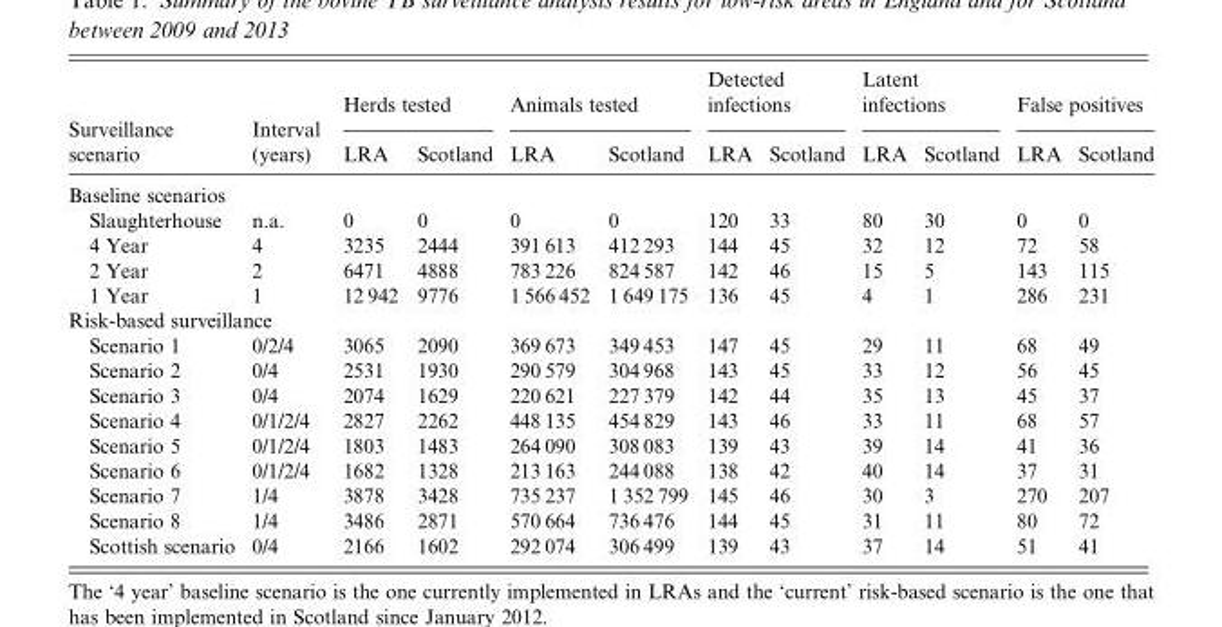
<table><thead><tr><td rowspan="2">Surveillance scenario</td><td rowspan="2">Interval (years)</td><td colspan="2">Herds tested</td><td colspan="2">Animals tested</td><td colspan="2">Detected infections</td><td colspan="2">Latent infections</td><td colspan="2">False positives</td></tr><tr><td>LRA</td><td>Scotland</td><td>LRA</td><td>Scotland</td><td>LRA</td><td>Scotland</td><td>LRA</td><td>Scotland</td><td>LRA</td><td>Scotland</td></tr></thead><tbody><tr><td colspan="12">Baseline scenarios</td></tr><tr><td>Slaughterhouse</td><td>n.a.</td><td>0</td><td>0</td><td>0</td><td>0</td><td>120</td><td>33</td><td>80</td><td>30</td><td>0</td><td>0</td></tr><tr><td>4 Year</td><td>4</td><td>3235</td><td>2444</td><td>391 613</td><td>412 293</td><td>144</td><td>45</td><td>32</td><td>12</td><td>72</td><td>58</td></tr><tr><td>2 Year</td><td>2</td><td>6471</td><td>4888</td><td>783 226</td><td>824 587</td><td>142</td><td>46</td><td>15</td><td>5</td><td>143</td><td>115</td></tr><tr><td>1 Year</td><td>1</td><td>12 942</td><td>9776</td><td>1 566 452</td><td>1 649 175</td><td>136</td><td>45</td><td>4</td><td>1</td><td>286</td><td>231</td></tr><tr><td colspan="12">Risk-based surveillance</td></tr><tr><td>Scenario 1</td><td>0/2/4</td><td>3065</td><td>2090</td><td>369 673</td><td>349 453</td><td>147</td><td>45</td><td>29</td><td>11</td><td>68</td><td>49</td></tr><tr><td>Scenario 2</td><td>0/4</td><td>2531</td><td>1930</td><td>290 579</td><td>304 968</td><td>143</td><td>45</td><td>33</td><td>12</td><td>56</td><td>45</td></tr><tr><td>Scenario 3</td><td>0/4</td><td>2074</td><td>1629</td><td>220 621</td><td>227 379</td><td>142</td><td>44</td><td>35</td><td>13</td><td>45</td><td>37</td></tr><tr><td>Scenario 4</td><td>0/1/2/4</td><td>2827</td><td>2262</td><td>448 135</td><td>454 829</td><td>143</td><td>46</td><td>33</td><td>11</td><td>68</td><td>57</td></tr><tr><td>Scenario 5</td><td>0/1/2/4</td><td>1803</td><td>1483</td><td>264 090</td><td>308 083</td><td>139</td><td>43</td><td>39</td><td>14</td><td>41</td><td>36</td></tr><tr><td>Scenario 6</td><td>0/1/2/4</td><td>1682</td><td>1328</td><td>213 163</td><td>244 088</td><td>138</td><td>42</td><td>40</td><td>14</td><td>37</td><td>31</td></tr><tr><td>Scenario 7</td><td>1/4</td><td>3878</td><td>3428</td><td>735 237</td><td>1 352 799</td><td>145</td><td>46</td><td>30</td><td>3</td><td>270</td><td>207</td></tr><tr><td>Scenario 8</td><td>1/4</td><td>3486</td><td>2871</td><td>570 664</td><td>736 476</td><td>144</td><td>45</td><td>31</td><td>11</td><td>80</td><td>72</td></tr><tr><td>Scottish scenario</td><td>0/4</td><td>2166</td><td>1602</td><td>292 074</td><td>306 499</td><td>139</td><td>43</td><td>37</td><td>14</td><td>51</td><td>41</td></tr></tbody></table>